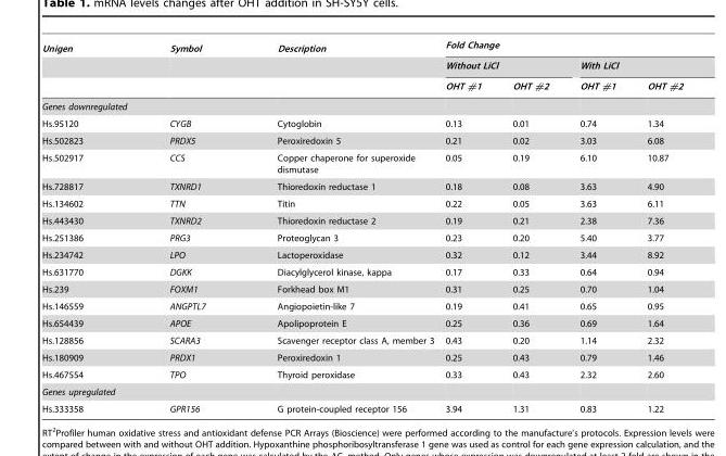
<table><thead><tr><td rowspan="3">Unigen</td><td rowspan="3">Symbol</td><td rowspan="3">Description</td><td colspan="4">Fold Change</td></tr><tr><td colspan="2">Without LiCl</td><td colspan="2">With LiCl</td></tr><tr><td>OHT #1</td><td>OHT #2</td><td>OHT #1</td><td>OHT #2</td></tr></thead><tbody><tr><td colspan="7">Genes downregulated</td></tr><tr><td>Hs.95120</td><td>CYGB</td><td>Cytoglobin</td><td>0.13</td><td>0.01</td><td>0.74</td><td>1.34</td></tr><tr><td>Hs.502823</td><td>PRDX5</td><td>Peroxiredoxin 5</td><td>0.21</td><td>0.02</td><td>3.03</td><td>6.08</td></tr><tr><td>Hs.502917</td><td>CCS</td><td>Copper chaperone for superoxide dismutase</td><td>0.05</td><td>0.19</td><td>6.10</td><td>10.87</td></tr><tr><td>Hs.728817</td><td>TXNRD1</td><td>Thioredoxin reductase 1</td><td>0.18</td><td>0.08</td><td>3.63</td><td>4.90</td></tr><tr><td>Hs.134602</td><td>TTN</td><td>Titin</td><td>0.22</td><td>0.05</td><td>3.63</td><td>6.11</td></tr><tr><td>Hs.443430</td><td>TXNRD2</td><td>Thioredoxin reductase 2</td><td>0.19</td><td>0.21</td><td>2.38</td><td>7.36</td></tr><tr><td>Hs.251386</td><td>PRG3</td><td>Proteoglycan 3</td><td>0.23</td><td>0.20</td><td>5.40</td><td>3.77</td></tr><tr><td>Hs.234742</td><td>LPO</td><td>Lactoperoxidase</td><td>0.32</td><td>0.12</td><td>3.44</td><td>8.92</td></tr><tr><td>Hs.631770</td><td>DGKK</td><td>Diacylglycerol kinase, kappa</td><td>0.17</td><td>0.33</td><td>0.64</td><td>0.94</td></tr><tr><td>Hs.239</td><td>FOXM1</td><td>Forkhead box M1</td><td>0.31</td><td>0.25</td><td>0.70</td><td>1.04</td></tr><tr><td>Hs.146559</td><td>ANGPTL7</td><td>Angiopoietin-like 7</td><td>0.19</td><td>0.41</td><td>0.65</td><td>0.95</td></tr><tr><td>Hs.654439</td><td>APOE</td><td>Apolipoprotein E</td><td>0.25</td><td>0.36</td><td>0.69</td><td>1.64</td></tr><tr><td>Hs.128856</td><td>SCARA3</td><td>Scavenger receptor class A, member 3</td><td>0.43</td><td>0.20</td><td>1.14</td><td>2.32</td></tr><tr><td>Hs.180909</td><td>PRDX1</td><td>Peroxiredoxin 1</td><td>0.25</td><td>0.43</td><td>0.79</td><td>1.46</td></tr><tr><td>Hs.467554</td><td>TPO</td><td>Thyroid peroxidase</td><td>0.33</td><td>0.43</td><td>2.32</td><td>2.60</td></tr><tr><td colspan="7">Genes upregulated</td></tr><tr><td>Hs.333358</td><td>GPR156</td><td>G protein-coupled receptor 156</td><td>3.94</td><td>1.31</td><td>0.83</td><td>1.22</td></tr></tbody></table>